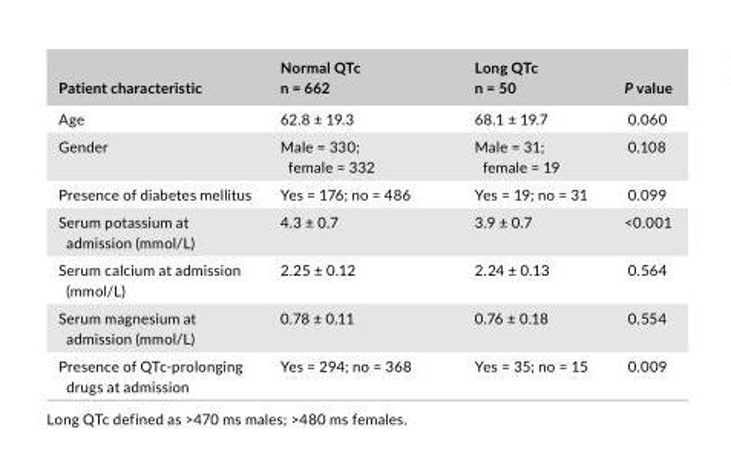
<table><thead><tr><td>Patient characteristic</td><td>Normal QTc n = 662</td><td>Long QTc n = 50</td><td>P value</td></tr></thead><tbody><tr><td>Age</td><td>62.8 ± 19.3</td><td>68.1 ± 19.7</td><td>0.060</td></tr><tr><td>Gender</td><td>Male = 330; female = 332</td><td>Male = 31; female = 19</td><td>0.108</td></tr><tr><td>Presence of diabetes mellitus</td><td>Yes = 176; no = 486</td><td>Yes = 19; no = 31</td><td>0.099</td></tr><tr><td>Serum potassium at admission (mmol/L)</td><td>4.3 ± 0.7</td><td>3.9 ± 0.7</td><td>&lt;0.001</td></tr><tr><td>Serum calcium at admission (mmol/L)</td><td>2.25 ± 0.12</td><td>2.24 ± 0.13</td><td>0.564</td></tr><tr><td>Serum magnesium at admission (mmol/L)</td><td>0.78 ± 0.11</td><td>0.76 ± 0.18</td><td>0.554</td></tr><tr><td>Presence of QTc- prolonging drugs at admission</td><td>Yes = 294; no = 368</td><td>Yes = 35; no = 15</td><td>0.009</td></tr></tbody></table>